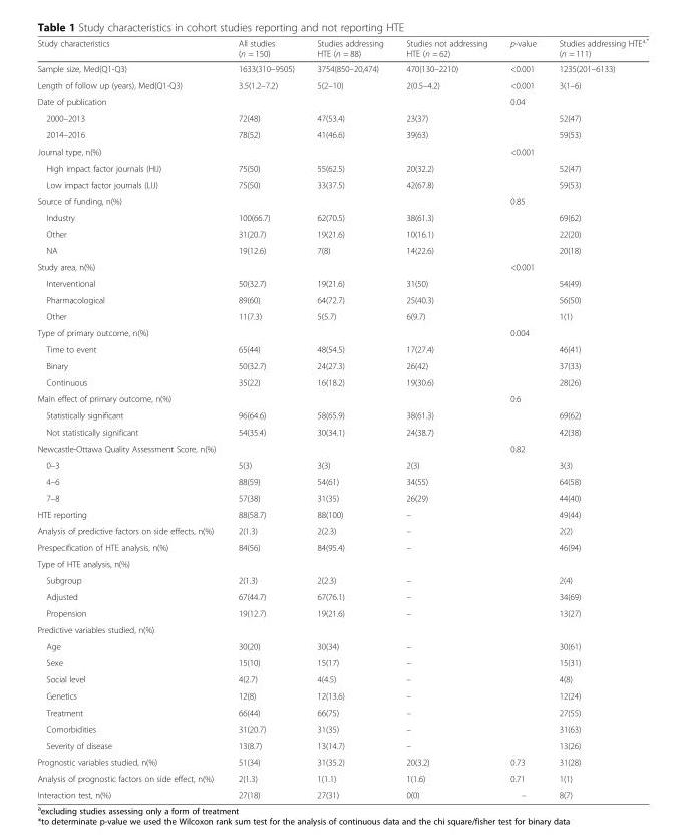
<table><thead><tr><td>Study characteristics</td><td>All studies (n = 150)</td><td>Studies addressing HTE (n = 88)</td><td>Studies not addressing HTE (n = 62)</td><td>p-value</td><td>Studies addressing HTE<sup>a,*</sup> (n = 111)</td></tr></thead><tbody><tr><td>Sample size, Med(Q1-Q3)</td><td>1633(310–9505)</td><td>3754(850–20,474)</td><td>470(130–2210)</td><td>&lt;0.001</td><td>1235(201–6133)</td></tr><tr><td>Length of follow up (years), Med(Q1-Q3)</td><td>3.5(1.2–7.2)</td><td>5(2–10)</td><td>2(0.5–4.2)</td><td>&lt;0.001</td><td>3(1–6)</td></tr><tr><td>Date of publication</td><td></td><td></td><td></td><td>0.04</td><td></td></tr><tr><td>2000–2013</td><td>72(48)</td><td>47(53.4)</td><td>23(37)</td><td></td><td>52(47)</td></tr><tr><td>2014–2016</td><td>78(52)</td><td>41(46.6)</td><td>39(63)</td><td></td><td>59(53)</td></tr><tr><td>Journal type, n(%)</td><td></td><td></td><td></td><td>&lt;0.001</td><td></td></tr><tr><td>High impact factor journals (HIJ)</td><td>75(50)</td><td>55(62.5)</td><td>20(32.2)</td><td></td><td>52(47)</td></tr><tr><td>Low impact factor journals (LIJ)</td><td>75(50)</td><td>33(37.5)</td><td>42(67.8)</td><td></td><td>59(53)</td></tr><tr><td>Source of funding, n(%)</td><td></td><td></td><td></td><td>0.85</td><td></td></tr><tr><td>Industry</td><td>100(66.7)</td><td>62(70.5)</td><td>38(61.3)</td><td></td><td>69(62)</td></tr><tr><td>Other</td><td>31(20.7)</td><td>19(21.6)</td><td>10(16.1)</td><td></td><td>22(20)</td></tr><tr><td>NA</td><td>19(12.6)</td><td>7(8)</td><td>14(22.6)</td><td></td><td>20(18)</td></tr><tr><td>Study area, n(%)</td><td></td><td></td><td></td><td>&lt;0.001</td><td></td></tr><tr><td>Interventional</td><td>50(32.7)</td><td>19(21.6)</td><td>31(50)</td><td></td><td>54(49)</td></tr><tr><td>Pharmacological</td><td>89(60)</td><td>64(72.7)</td><td>25(40.3)</td><td></td><td>56(50)</td></tr><tr><td>Other</td><td>11(7.3)</td><td>5(5.7)</td><td>6(9.7)</td><td></td><td>1(1)</td></tr><tr><td>Type of primary outcome, n(%)</td><td></td><td></td><td></td><td>0.004</td><td></td></tr><tr><td>Time to event</td><td>65(44)</td><td>48(54.5)</td><td>17(27.4)</td><td></td><td>46(41)</td></tr><tr><td>Binary</td><td>50(32.7)</td><td>24(27.3)</td><td>26(42)</td><td></td><td>37(33)</td></tr><tr><td>Continuous</td><td>35(22)</td><td>16(18.2)</td><td>19(30.6)</td><td></td><td>28(26)</td></tr><tr><td>Main effect of primary outcome, n(%)</td><td></td><td></td><td></td><td>0.6</td><td></td></tr><tr><td>Statistically significant</td><td>96(64.6)</td><td>58(65.9)</td><td>38(61.3)</td><td></td><td>69(62)</td></tr><tr><td>Not statistically significant</td><td>54(35.4)</td><td>30(34.1)</td><td>24(38.7)</td><td></td><td>42(38)</td></tr><tr><td>Newcastle-Ottawa Quality Assessment Score, n(%)</td><td></td><td></td><td></td><td>0.82</td><td></td></tr><tr><td>0–3</td><td>5(3)</td><td>3(3)</td><td>2(3)</td><td></td><td>3(3)</td></tr><tr><td>4–6</td><td>88(59)</td><td>54(61)</td><td>34(55)</td><td></td><td>64(58)</td></tr><tr><td>7–8</td><td>57(38)</td><td>31(35)</td><td>26(29)</td><td></td><td>44(40)</td></tr><tr><td>HTE reporting</td><td>88(58.7)</td><td>88(100)</td><td>–</td><td></td><td>49(44)</td></tr><tr><td>Analysis of predictive factors on side effects, n(%)</td><td>2(1.3)</td><td>2(2.3)</td><td>–</td><td></td><td>2(2)</td></tr><tr><td>Prespecification of HTE analysis, n(%)</td><td>84(56)</td><td>84(95.4)</td><td>–</td><td></td><td>46(94)</td></tr><tr><td colspan="6">Type of HTE analysis, n(%)</td></tr><tr><td>Subgroup</td><td>2(1.3)</td><td>2(2.3)</td><td>–</td><td></td><td>2(4)</td></tr><tr><td>Adjusted</td><td>67(44.7)</td><td>67(76.1)</td><td>–</td><td></td><td>34(69)</td></tr><tr><td>Propension</td><td>19(12.7)</td><td>19(21.6)</td><td>–</td><td></td><td>13(27)</td></tr><tr><td colspan="6">Predictive variables studied, n(%)</td></tr><tr><td>Age</td><td>30(20)</td><td>30(34)</td><td>–</td><td></td><td>30(61)</td></tr><tr><td>Sexe</td><td>15(10)</td><td>15(17)</td><td>–</td><td></td><td>15(31)</td></tr><tr><td>Social level</td><td>4(2.7)</td><td>4(4.5)</td><td>–</td><td></td><td>4(8)</td></tr><tr><td>Genetics</td><td>12(8)</td><td>12(13.6)</td><td>–</td><td></td><td>12(24)</td></tr><tr><td>Treatment</td><td>66(44)</td><td>66(75)</td><td>–</td><td></td><td>27(55)</td></tr><tr><td>Comorbidities</td><td>31(20.7)</td><td>31(35)</td><td>–</td><td></td><td>31(63)</td></tr><tr><td>Severity of disease</td><td>13(8.7)</td><td>13(14.7)</td><td>–</td><td></td><td>13(26)</td></tr><tr><td>Prognostic variables studied, n(%)</td><td>51(34)</td><td>31(35.2)</td><td>20(3.2)</td><td>0.73</td><td>31(28)</td></tr><tr><td>Analysis of prognostic factors on side effect, n(%)</td><td>2(1.3)</td><td>1(1.1)</td><td>1(1.6)</td><td>0.71</td><td>1(1)</td></tr><tr><td>Interaction test, n(%)</td><td>27(18)</td><td>27(31)</td><td>0(0)</td><td>–</td><td>8(7)</td></tr></tbody></table>